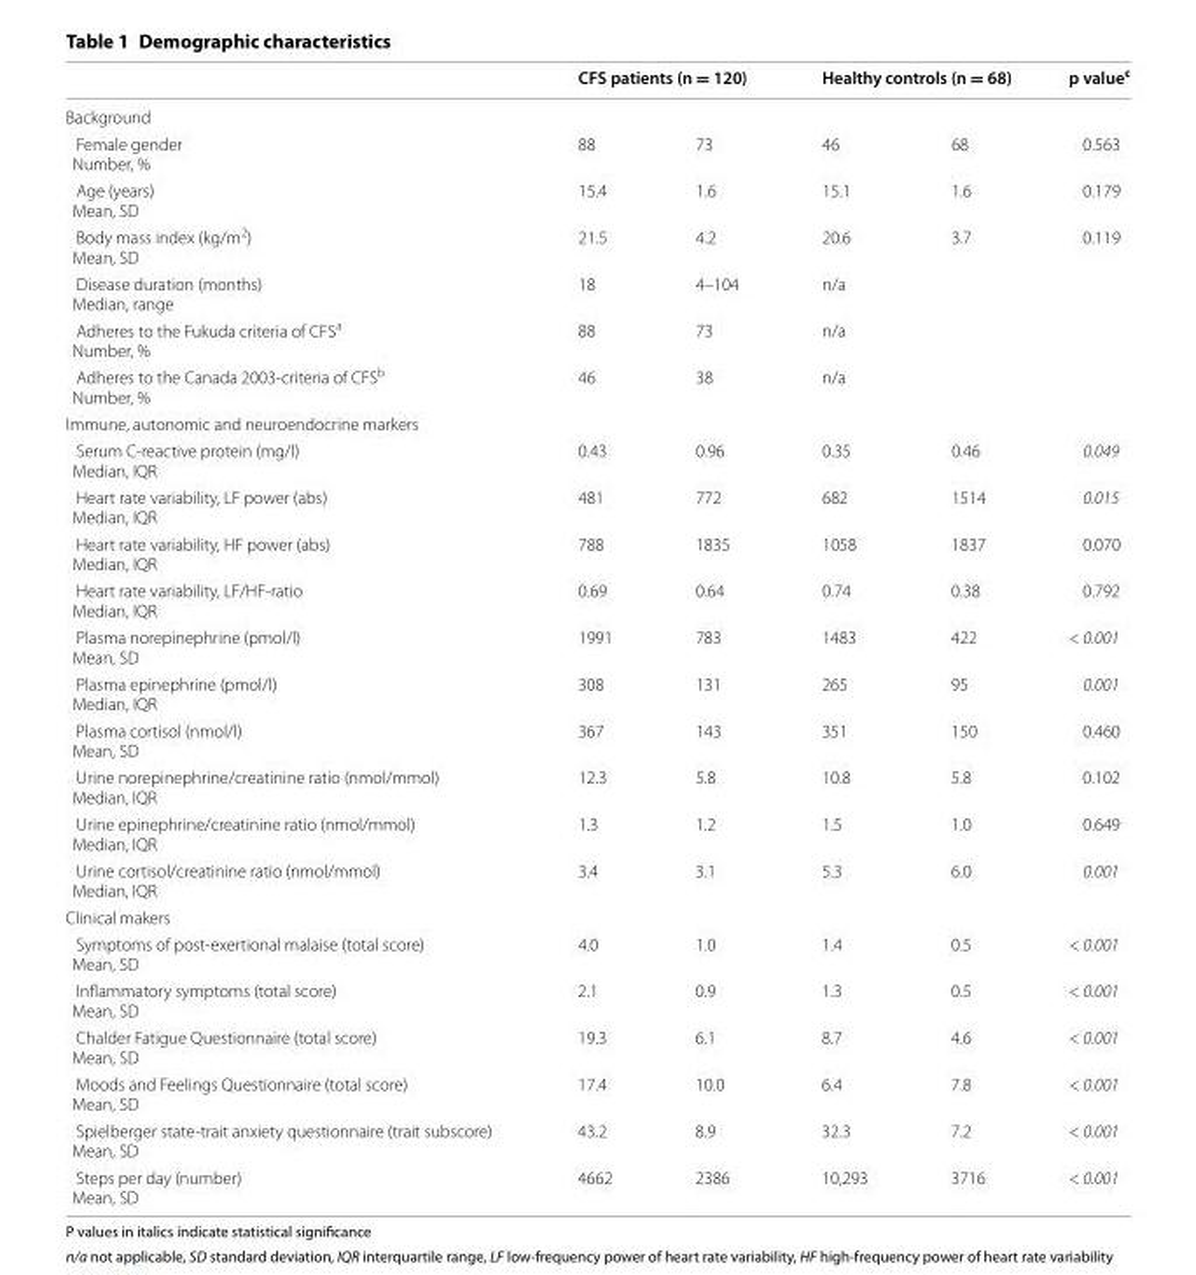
<table><thead><tr><td></td><td colspan="2">CFS patients (n = 120)</td><td colspan="2">Healthy controls (n = 68)</td><td>p value<sup>c</sup></td></tr><tr><td colspan="6">Background</td></tr><tr><td>Female gender Number, %</td><td>88</td><td>73</td><td>46</td><td>68</td><td>0.563</td></tr></thead><tbody><tr><td>Age (years) Mean, SD</td><td>15.4</td><td>1.6</td><td>15.1</td><td>1.6</td><td>0.179</td></tr><tr><td>Body mass index (kg/m<sup>2</sup>) Mean, SD</td><td>21.5</td><td>4.2</td><td>20.6</td><td>3.7</td><td>0.119</td></tr><tr><td>Disease duration (months) Median, range</td><td>18</td><td>4–104</td><td>n/a</td><td></td><td></td></tr><tr><td>Adheres to the Fukuda criteria of CFS<sup>a</sup> Number, %</td><td>88</td><td>73</td><td>n/a</td><td></td><td></td></tr><tr><td>Adheres to the Canada 2003-criteria of CFS<sup>b</sup> Number, %</td><td>46</td><td>38</td><td>n/a</td><td></td><td></td></tr><tr><td colspan="6">Immune, autonomic and neuroendocrine markers</td></tr><tr><td>Serum C-reactive protein (mg/l) Median, IQR</td><td>0.43</td><td>0.96</td><td>0.35</td><td>0.46</td><td>0.049</td></tr><tr><td>Heart rate variability, LF power (abs) Median, IQR</td><td>481</td><td>772</td><td>682</td><td>1514</td><td>0.015</td></tr><tr><td>Heart rate variability, HF power (abs) Median, IQR</td><td>788</td><td>1835</td><td>1058</td><td>1837</td><td>0.070</td></tr><tr><td>Heart rate variability, LF/HF-ratio Median, IQR</td><td>0.69</td><td>0.64</td><td>0.74</td><td>0.38</td><td>0.792</td></tr><tr><td>Plasma norepinephrine (pmol/l) Mean, SD</td><td>1991</td><td>783</td><td>1483</td><td>422</td><td>&lt; 0.001</td></tr><tr><td>Plasma epinephrine (pmol/l) Median, IQR</td><td>308</td><td>131</td><td>265</td><td>95</td><td>0.001</td></tr><tr><td>Plasma cortisol (nmol/l) Mean, SD</td><td>367</td><td>143</td><td>351</td><td>150</td><td>0.460</td></tr><tr><td>Urine norepinephrine/creatinine ratio (nmol/mmol) Median, IQR</td><td>12.3</td><td>5.8</td><td>10.8</td><td>5.8</td><td>0.102</td></tr><tr><td>Urine epinephrine/creatinine ratio (nmol/mmol) Median, IQR</td><td>1.3</td><td>1.2</td><td>1.5</td><td>1.0</td><td>0.649</td></tr><tr><td>Urine cortisol/creatinine ratio (nmol/mmol) Median, IQR</td><td>3.4</td><td>3.1</td><td>5.3</td><td>6.0</td><td>0.001</td></tr><tr><td colspan="6">Clinical makers</td></tr><tr><td>Symptoms of post-exertional malaise (total score) Mean, SD</td><td>4.0</td><td>1.0</td><td>1.4</td><td>0.5</td><td>&lt; 0.001</td></tr><tr><td>Inflammatory symptoms (total score) Mean, SD</td><td>2.1</td><td>0.9</td><td>1.3</td><td>0.5</td><td>&lt; 0.001</td></tr><tr><td>Chalder Fatigue Questionnaire (total score) Mean, SD</td><td>19.3</td><td>6.1</td><td>8.7</td><td>4.6</td><td>&lt; 0.001</td></tr><tr><td>Moods and Feelings Questionnaire (total score) Mean, SD</td><td>17.4</td><td>10.0</td><td>6.4</td><td>7.8</td><td>&lt; 0.001</td></tr><tr><td>Spielberger state-trait anxiety questionnaire (trait subscore) Mean, SD</td><td>43.2</td><td>8.9</td><td>32.3</td><td>7.2</td><td>&lt; 0.001</td></tr><tr><td>Steps per day (number) Mean, SD</td><td>4662</td><td>2386</td><td>10,293</td><td>3716</td><td>&lt; 0.001</td></tr></tbody></table>